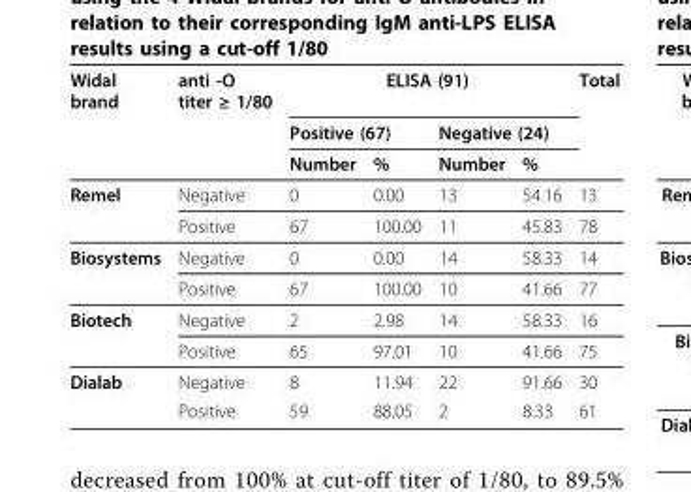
<table><thead><tr><td rowspan="3">Widal brand</td><td rowspan="3">anti -O titer ≥ 1/80</td><td colspan="4">ELISA (91)</td><td rowspan="3">Total</td></tr><tr><td colspan="2">Positive (67)</td><td colspan="2">Negative (24)</td></tr><tr><td>Number</td><td>%</td><td>Number</td><td>%</td></tr></thead><tbody><tr><td rowspan="2">Remel</td><td>Negative</td><td>0</td><td>0.00</td><td>13</td><td>54.16</td><td>13</td></tr><tr><td>Positive</td><td>67</td><td>100.00</td><td>11</td><td>45.83</td><td>78</td></tr><tr><td rowspan="2">Biosystems</td><td>Negative</td><td>0</td><td>0.00</td><td>14</td><td>58.33</td><td>14</td></tr><tr><td>Positive</td><td>67</td><td>100.00</td><td>10</td><td>41.66</td><td>77</td></tr><tr><td rowspan="2">Biotech</td><td>Negative</td><td>2</td><td>2.98</td><td>14</td><td>58.33</td><td>16</td></tr><tr><td>Positive</td><td>65</td><td>97.01</td><td>10</td><td>41.66</td><td>75</td></tr><tr><td rowspan="2">Dialab</td><td>Negative</td><td>8</td><td>11.94</td><td>22</td><td>91.66</td><td>30</td></tr><tr><td>Positive</td><td>59</td><td>88.05</td><td>2</td><td>8.33</td><td>61</td></tr></tbody></table>